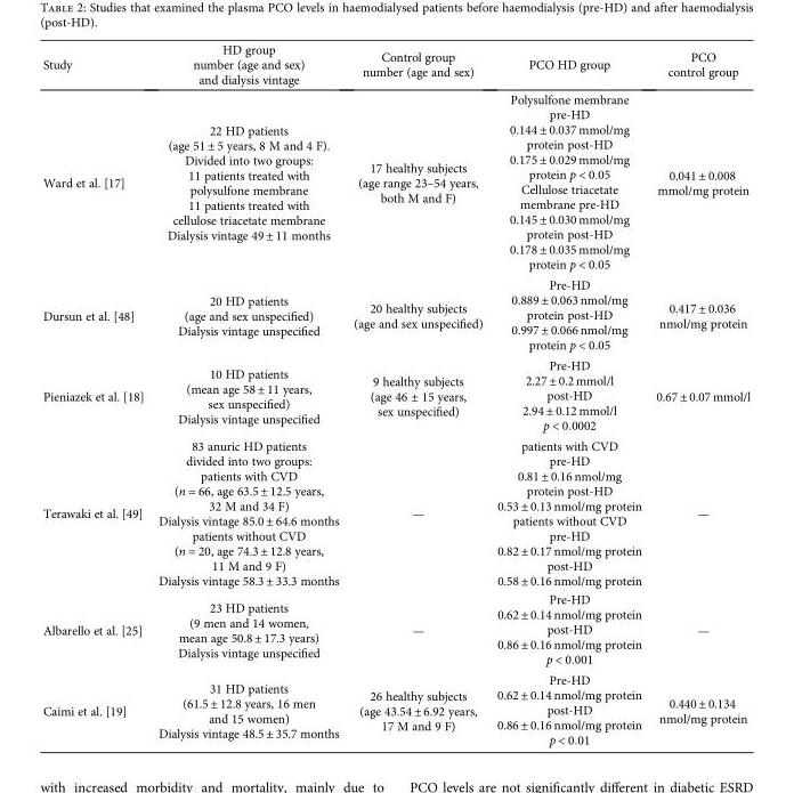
<table><thead><tr><td>Study</td><td>HD group number (age and sex) and dialysis vintage</td><td>Control group number (age and sex)</td><td>PCO HD group</td><td>PCO control group</td></tr></thead><tbody><tr><td>Ward et al. [17]</td><td>22 HD patients (age 51 ± 5 years, 8 M and 4 F). Divided into two groups: 11 patients treated with polysulfone membrane 11 patients treated with cellulose triacetate membrane Dialysis vintage 49 ± 11 months</td><td>17 healthy subjects (age range 23–54 years, both M and F)</td><td>Polysulfone membrane pre-HD 0.144 ± 0.037 mmol/mg protein post-HD 0.175 ± 0.029 mmol/mg protein p &lt; 0 05 Cellulose triacetate membrane pre-HD 0.145 ± 0.030 mmol/mg protein post-HD 0.178 ± 0.035 mmol/mg protein p &lt; 0 05</td><td>0.041 ± 0.008 mmol/mg protein</td></tr><tr><td>Dursun et al. [48]</td><td>20 HD patients (age and sex unspecified) Dialysis vintage unspecified</td><td>20 healthy subjects (age and sex unspecified)</td><td>Pre-HD 0.889 ± 0.063 nmol/mg protein post-HD 0.997 ± 0.066 nmol/mg protein p &lt; 0 05</td><td>0.417 ± 0.036 nmol/mg protein</td></tr><tr><td>Pieniazek et al. [18]</td><td>10 HD patients (mean age 58 ± 11 years, sex unspecified) Dialysis vintage unspecified</td><td>9 healthy subjects (age 46 ± 15 years, sex unspecified)</td><td>Pre-HD 2.27 ± 0.2 mmol/l post-HD 2.94 ± 0.12 mmol/l p &lt; 0 0002</td><td>0.67 ± 0.07 mmol/l</td></tr><tr><td>Terawaki et al. [49]</td><td>83 anuric HD patients divided into two groups: patients with CVD (n = 66, age 63.5 ± 12.5 years, 32 M and 34 F) Dialysis vintage 85.0 ± 64.6 months patients without CVD (n = 20, age 74.3 ± 12.8 years, 11 M and 9 F) Dialysis vintage 58.3 ± 33.3 months</td><td>—</td><td>patients with CVD pre-HD 0.81 ± 0.16 nmol/mg protein post-HD 0.53 ± 0.13 nmol/mg protein patients without CVD pre-HD 0.82 ± 0.17 nmol/mg protein post-HD 0.58 ± 0.16 nmol/mg protein</td><td>—</td></tr><tr><td>Albarello et al. [25]</td><td>23 HD patients (9 men and 14 women, mean age 50.8 ± 17.3 years) Dialysis vintage unspecified</td><td>—</td><td>Pre-HD 0.62 ± 0.14 nmol/mg protein post-HD 0.86 ± 0.16 nmol/mg protein p &lt; 0 001</td><td>—</td></tr><tr><td>Caimi et al. [19]</td><td>31 HD patients (61.5 ± 12.8 years, 16 men and 15 women) Dialysis vintage 48.5 ± 35.7 months</td><td>26 healthy subjects (age 43.54 ± 6.92 years, 17 M and 9 F)</td><td>Pre-HD 0.62 ± 0.14 nmol/mg protein post-HD 0.86 ± 0.16 nmol/mg protein p &lt; 0 01</td><td>0.440 ± 0.134 nmol/mg protein</td></tr></tbody></table>